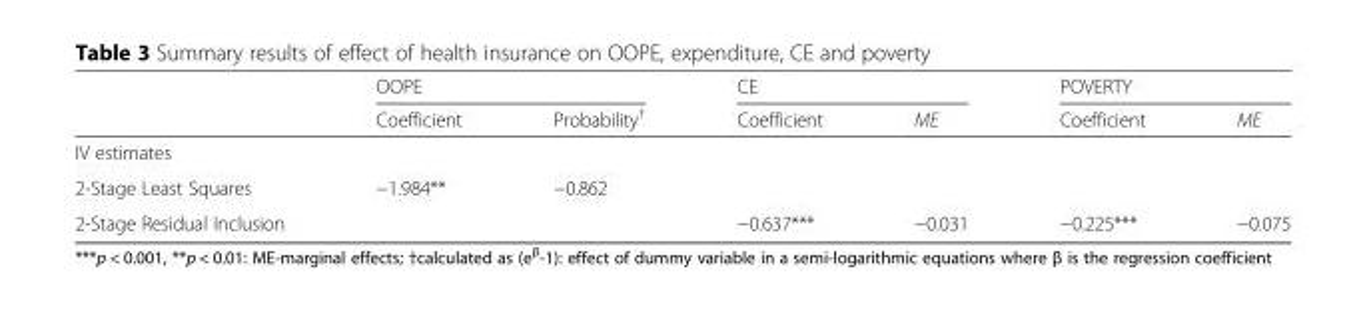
<table><thead><tr><td rowspan="2"></td><td colspan="2">OOPE</td><td colspan="2">CE</td><td colspan="2">POVERTY</td></tr><tr><td>Coefficient</td><td>Probability<sup>†</sup></td><td>Coefficient</td><td>ME</td><td>Coefficient</td><td>ME</td></tr></thead><tbody><tr><td colspan="7">IV estimates</td></tr><tr><td>2-Stage Least Squares</td><td>−1.984**</td><td>−0.862</td><td></td><td></td><td></td><td></td></tr><tr><td>2-Stage Residual Inclusion</td><td></td><td></td><td>−0.637***</td><td>−0.031</td><td>−0.225***</td><td>−0.075</td></tr></tbody></table>